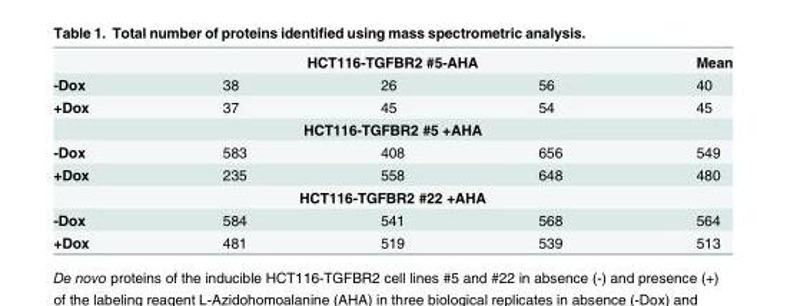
<table><thead><tr><td rowspan="2">-Dox</td><td colspan="3">HCT116-TGFBR2 #5-AHA</td><td rowspan="2">Mean 40</td></tr><tr><td>38</td><td>26</td><td>56</td></tr></thead><tbody><tr><td rowspan="2">+Dox</td><td>37</td><td>45</td><td>54</td><td>45</td></tr><tr><td colspan="3">HCT116-TGFBR2 #5 +AHA</td><td></td></tr><tr><td>-Dox</td><td>583</td><td>408</td><td>656</td><td>549</td></tr><tr><td rowspan="2">+Dox</td><td>235</td><td>558</td><td>648</td><td>480</td></tr><tr><td colspan="3">HCT116-TGFBR2 #22 +AHA</td><td></td></tr><tr><td>-Dox</td><td>584</td><td>541</td><td>568</td><td>564</td></tr><tr><td>+Dox</td><td>481</td><td>519</td><td>539</td><td>513</td></tr></tbody></table>